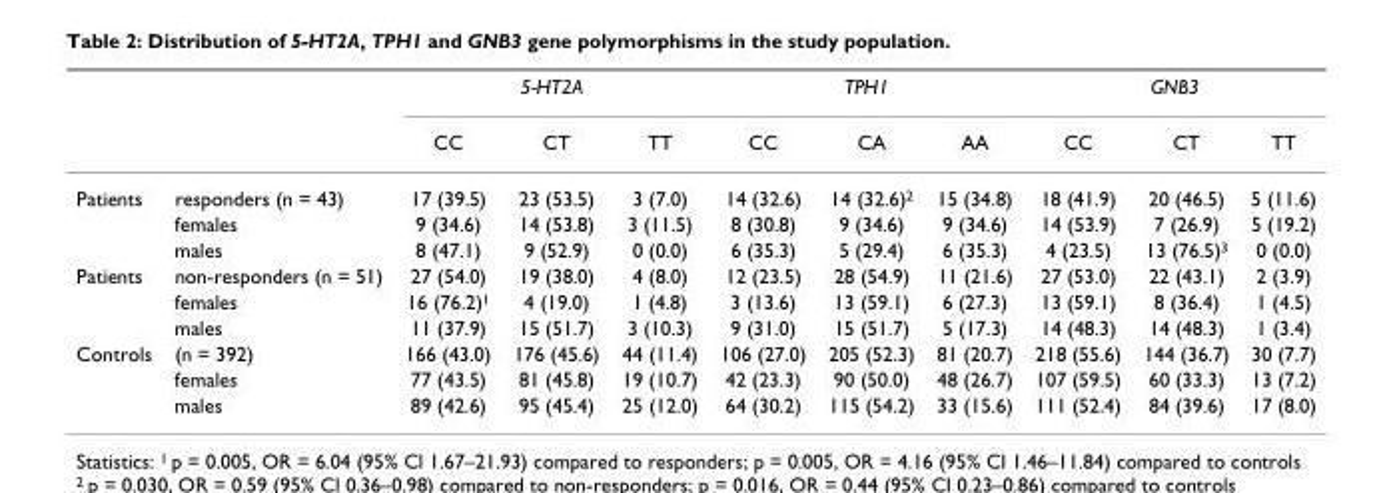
<table><thead><tr><td rowspan="2"></td><td rowspan="2"></td><td colspan="3">5-HT2A</td><td colspan="3">TPH1</td><td colspan="3">GNB3</td></tr><tr><td>CC</td><td>CT</td><td>TT</td><td>CC</td><td>CA</td><td>AA</td><td>CC</td><td>CT</td><td>TT</td></tr></thead><tbody><tr><td rowspan="3">Patients</td><td>responders (n = 43)</td><td>17 (39.5)</td><td>23 (53.5)</td><td>3 (7.0)</td><td>14 (32.6)</td><td>14 (32.6)<sup>2</sup></td><td>15 (34.8)</td><td>18 (41.9)</td><td>20 (46.5)</td><td>5 (11.6)</td></tr><tr><td>females</td><td>9 (34.6)</td><td>14 (53.8)</td><td>3 (11.5)</td><td>8 (30.8)</td><td>9 (34.6)</td><td>9 (34.6)</td><td>14 (53.9)</td><td>7 (26.9)</td><td>5 (19.2)</td></tr><tr><td>males</td><td>8 (47.1)</td><td>9 (52.9)</td><td>0 (0.0)</td><td>6 (35.3)</td><td>5 (29.4)</td><td>6 (35.3)</td><td>4 (23.5)</td><td>13 (76.5)<sup>3</sup></td><td>0 (0.0)</td></tr><tr><td rowspan="3">Patients</td><td>non-responders (n = 51)</td><td>27 (54.0)</td><td>19 (38.0)</td><td>4 (8.0)</td><td>12 (23.5)</td><td>28 (54.9)</td><td>11 (21.6)</td><td>27 (53.0)</td><td>22 (43.1)</td><td>2 (3.9)</td></tr><tr><td>females</td><td>16 (76.2)<sup>1</sup></td><td>4 (19.0)</td><td>1 (4.8)</td><td>3 (13.6)</td><td>13 (59.1)</td><td>6 (27.3)</td><td>13 (59.1)</td><td>8 (36.4)</td><td>1 (4.5)</td></tr><tr><td>males</td><td>11 (37.9)</td><td>15 (51.7)</td><td>3 (10.3)</td><td>9 (31.0)</td><td>15 (51.7)</td><td>5 (17.3)</td><td>14 (48.3)</td><td>14 (48.3)</td><td>1 (3.4)</td></tr><tr><td rowspan="3">Controls</td><td>(n = 392)</td><td>166 (43.0)</td><td>176 (45.6)</td><td>44 (11.4)</td><td>106 (27.0)</td><td>205 (52.3)</td><td>81 (20.7)</td><td>218 (55.6)</td><td>144 (36.7)</td><td>30 (7.7)</td></tr><tr><td>females</td><td>77 (43.5)</td><td>81 (45.8)</td><td>19 (10.7)</td><td>42 (23.3)</td><td>90 (50.0)</td><td>48 (26.7)</td><td>107 (59.5)</td><td>60 (33.3)</td><td>13 (7.2)</td></tr><tr><td>males</td><td>89 (42.6)</td><td>95 (45.4)</td><td>25 (12.0)</td><td>64 (30.2)</td><td>115 (54.2)</td><td>33 (15.6)</td><td>111 (52.4)</td><td>84 (39.6)</td><td>17 (8.0)</td></tr></tbody></table>